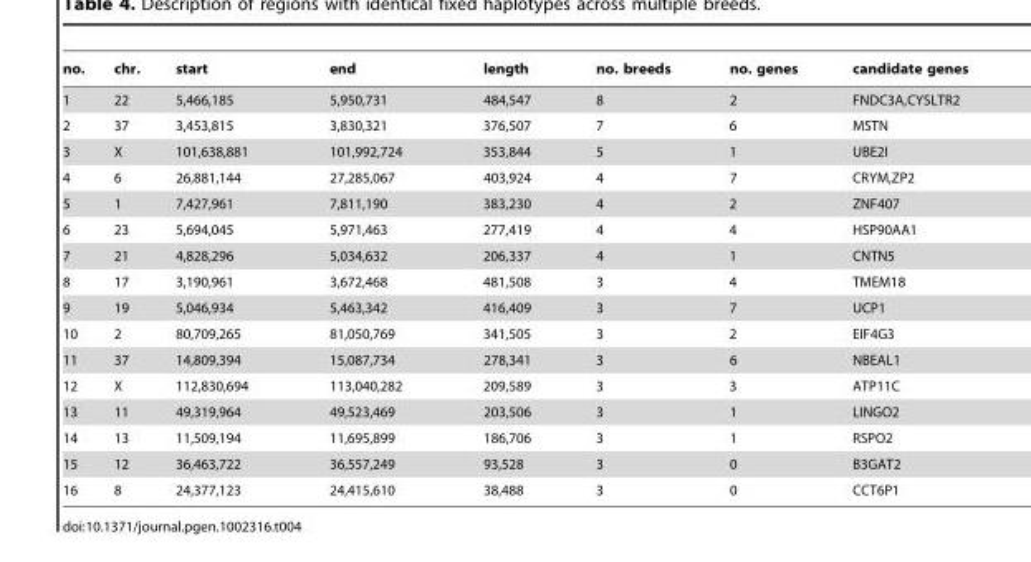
<table><thead><tr><td>no.</td><td>chr.</td><td>start</td><td>end</td><td>length</td><td>no. breeds</td><td>no. genes</td><td>candidate genes</td></tr></thead><tbody><tr><td>1</td><td>22</td><td>5,466,185</td><td>5,950,731</td><td>484,547</td><td>8</td><td>2</td><td>FNDC3A,CYSLTR2</td></tr><tr><td>2</td><td>37</td><td>3,453,815</td><td>3,830,321</td><td>376,507</td><td>7</td><td>6</td><td>MSTN</td></tr><tr><td>3</td><td>X</td><td>101,638,881</td><td>101,992,724</td><td>353,844</td><td>5</td><td>1</td><td>UBE2I</td></tr><tr><td>4</td><td>6</td><td>26,881,144</td><td>27,285,067</td><td>403,924</td><td>4</td><td>7</td><td>CRYM,ZP2</td></tr><tr><td>5</td><td>1</td><td>7,427,961</td><td>7,811,190</td><td>383,230</td><td>4</td><td>2</td><td>ZNF407</td></tr><tr><td>6</td><td>23</td><td>5,694,045</td><td>5,971,463</td><td>277,419</td><td>4</td><td>4</td><td>HSP90AA1</td></tr><tr><td>7</td><td>21</td><td>4,828,296</td><td>5,034,632</td><td>206,337</td><td>4</td><td>1</td><td>CNTN5</td></tr><tr><td>8</td><td>17</td><td>3,190,961</td><td>3,672,468</td><td>481,508</td><td>3</td><td>4</td><td>TMEM18</td></tr><tr><td>9</td><td>19</td><td>5,046,934</td><td>5,463,342</td><td>416,409</td><td>3</td><td>7</td><td>UCP1</td></tr><tr><td>10</td><td>2</td><td>80,709,265</td><td>81,050,769</td><td>341,505</td><td>3</td><td>2</td><td>EIF4G3</td></tr><tr><td>11</td><td>37</td><td>14,809,394</td><td>15,087,734</td><td>278,341</td><td>3</td><td>6</td><td>NBEAL1</td></tr><tr><td>12</td><td>X</td><td>112,830,694</td><td>113,040,282</td><td>209,589</td><td>3</td><td>3</td><td>ATP11C</td></tr><tr><td>13</td><td>11</td><td>49,319,964</td><td>49,523,469</td><td>203,506</td><td>3</td><td>1</td><td>LINGO2</td></tr><tr><td>14</td><td>13</td><td>11,509,194</td><td>11,695,899</td><td>186,706</td><td>3</td><td>1</td><td>RSPO2</td></tr><tr><td>15</td><td>12</td><td>36,463,722</td><td>36,557,249</td><td>93,528</td><td>3</td><td>0</td><td>B3GAT2</td></tr><tr><td>16</td><td>8</td><td>24,377,123</td><td>24,415,610</td><td>38,488</td><td>3</td><td>0</td><td>CCT6P1</td></tr></tbody></table>